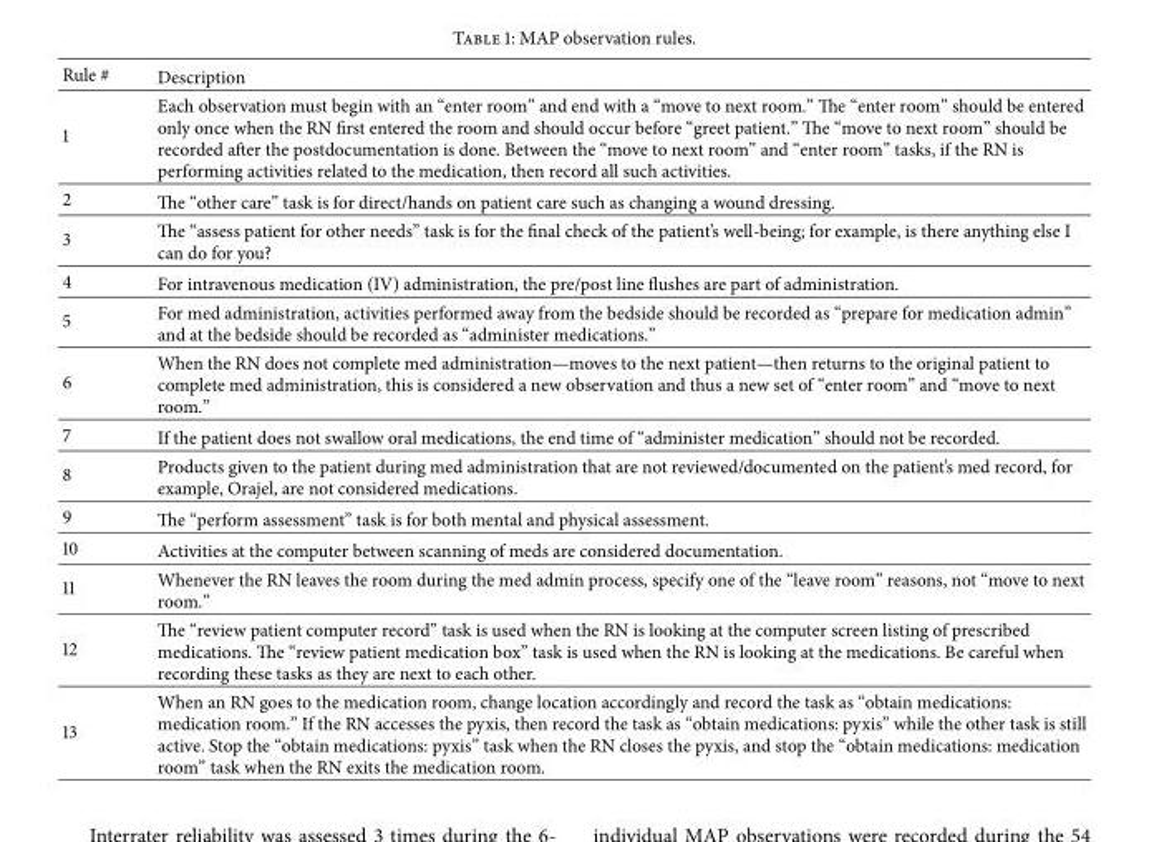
<table><thead><tr><td>Rule #</td><td>Description</td></tr></thead><tbody><tr><td>1</td><td>Each observation must begin with an “enter room” and end with a “move to next room.” The “enter room” should be entered only once when the RN first entered the room and should occur before “greet patient.” The “move to next room” should be recorded after the postdocumentation is done. Between the “move to next room” and “enter room” tasks, if the RN is performing activities related to the medication, then record all such activities.</td></tr><tr><td>2</td><td>The “other care” task is for direct/hands on patient care such as changing a wound dressing.</td></tr><tr><td>3</td><td>The “assess patient for other needs” task is for the final check of the patient’s well-being; for example, is there anything else I can do for you?</td></tr><tr><td>4</td><td>For intravenous medication (IV) administration, the pre/post line flushes are part of administration.</td></tr><tr><td>5</td><td>For med administration, activities performed away from the bedside should be recorded as “prepare for medication admin” and at the bedside should be recorded as “administer medications.”</td></tr><tr><td>6</td><td>When the RN does not complete med administration—moves to the next patient—then returns to the original patient to complete med administration, this is considered a new observation and thus a new set of “enter room” and “move to next room.”</td></tr><tr><td>7</td><td>If the patient does not swallow oral medications, the end time of “administer medication” should not be recorded.</td></tr><tr><td>8</td><td>Products given to the patient during med administration that are not reviewed/documented on the patient’s med record, for example, Orajel, are not considered medications.</td></tr><tr><td>9</td><td>The “perform assessment” task is for both mental and physical assessment.</td></tr><tr><td>10</td><td>Activities at the computer between scanning of meds are considered documentation.</td></tr><tr><td>11</td><td>Whenever the RN leaves the room during the med admin process, specify one of the “leave room” reasons, not “move to next room.”</td></tr><tr><td>12</td><td>The “review patient computer record” task is used when the RN is looking at the computer screen listing of prescribed medications. The “review patient medication box” task is used when the RN is looking at the medications. Be careful when recording these tasks as they are next to each other.</td></tr><tr><td>13</td><td>When an RN goes to the medication room, change location accordingly and record the task as “obtain medications: medication room.” If the RN accesses the pyxis, then record the task as “obtain medications: pyxis” while the other task is still active. Stop the “obtain medications: pyxis” task when the RN closes the pyxis, and stop the “obtain medications: medication room” task when the RN exits the medication room.</td></tr></tbody></table>